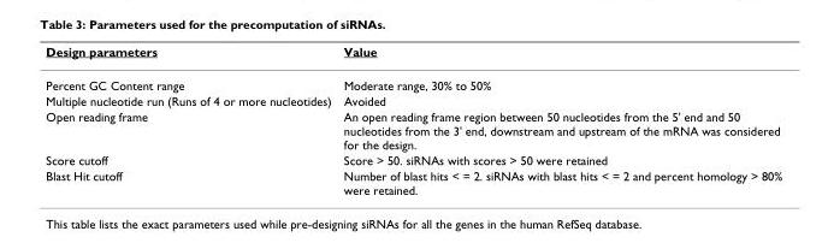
<table><thead><tr><td>Design parameters</td><td>Value</td></tr></thead><tbody><tr><td>Percent GC Content range</td><td>Moderate range, 30% to 50%</td></tr><tr><td>Multiple nucleotide run (Runs of 4 or more nucleotides)</td><td>Avoided</td></tr><tr><td>Open reading frame</td><td>An open reading frame region between 50 nucleotides from the 5&#x27; end and 50 nucleotides from the 3&#x27; end, downstream and upstream of the mRNA was considered for the design.</td></tr><tr><td>Score cutoff</td><td>Score &gt; 50. siRNAs with scores &gt; 50 were retained</td></tr><tr><td>Blast Hit cutoff</td><td>Number of blast hits &lt; = 2. siRNAs with blast hits &lt; = 2 and percent homology &gt; 80% were retained.</td></tr></tbody></table>